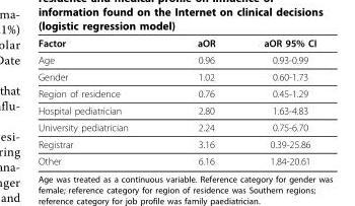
<table><thead><tr><td>Factor</td><td>aOR</td><td>aOR 95% CI</td></tr></thead><tbody><tr><td>Age</td><td>0.96</td><td>0.93-0.99</td></tr><tr><td>Gender</td><td>1.02</td><td>0.60-1.73</td></tr><tr><td>Region of residence</td><td>0.76</td><td>0.45-1.29</td></tr><tr><td>Hospital pediatrician</td><td>2.80</td><td>1.63-4.83</td></tr><tr><td>University pediatrician</td><td>2.24</td><td>0.75-6.70</td></tr><tr><td>Registrar</td><td>3.16</td><td>0.39-25.86</td></tr><tr><td>Other</td><td>6.16</td><td>1.84-20.61</td></tr></tbody></table>